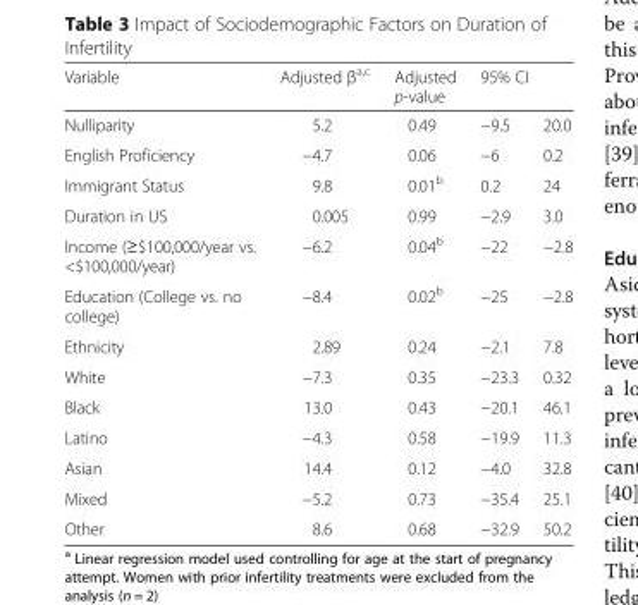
<table><thead><tr><td rowspan="2">Variable Nulliparity</td><td rowspan="2">Adjusted β<sup>a,c</sup> 5.2</td><td rowspan="2">Adjusted p-value 0.49</td><td colspan="2">95% CI</td></tr><tr><td>−9.5</td><td>20.0</td></tr></thead><tbody><tr><td>English Proficiency</td><td>−4.7</td><td>0.06</td><td>−6</td><td>0.2</td></tr><tr><td>Immigrant Status</td><td>9.8</td><td>0.01<sup>b</sup></td><td>0.2</td><td>24</td></tr><tr><td>Duration in US</td><td>0.005</td><td>0.99</td><td>−2.9</td><td>3.0</td></tr><tr><td>Income (≥$100,000/year vs. &lt;$100,000/year)</td><td>−6.2</td><td>0.04<sup>b</sup></td><td>−22</td><td>−2.8</td></tr><tr><td>Education (College vs. no college)</td><td>−8.4</td><td>0.02<sup>b</sup></td><td>−25</td><td>−2.8</td></tr><tr><td>Ethnicity</td><td>2.89</td><td>0.24</td><td>−2.1</td><td>7.8</td></tr><tr><td>White</td><td>−7.3</td><td>0.35</td><td>−23.3</td><td>0.32</td></tr><tr><td>Black</td><td>13.0</td><td>0.43</td><td>−20.1</td><td>46.1</td></tr><tr><td>Latino</td><td>−4.3</td><td>0.58</td><td>−19.9</td><td>11.3</td></tr><tr><td>Asian</td><td>14.4</td><td>0.12</td><td>−4.0</td><td>32.8</td></tr><tr><td>Mixed</td><td>−5.2</td><td>0.73</td><td>−35.4</td><td>25.1</td></tr><tr><td>Other</td><td>8.6</td><td>0.68</td><td>−32.9</td><td>50.2</td></tr></tbody></table>